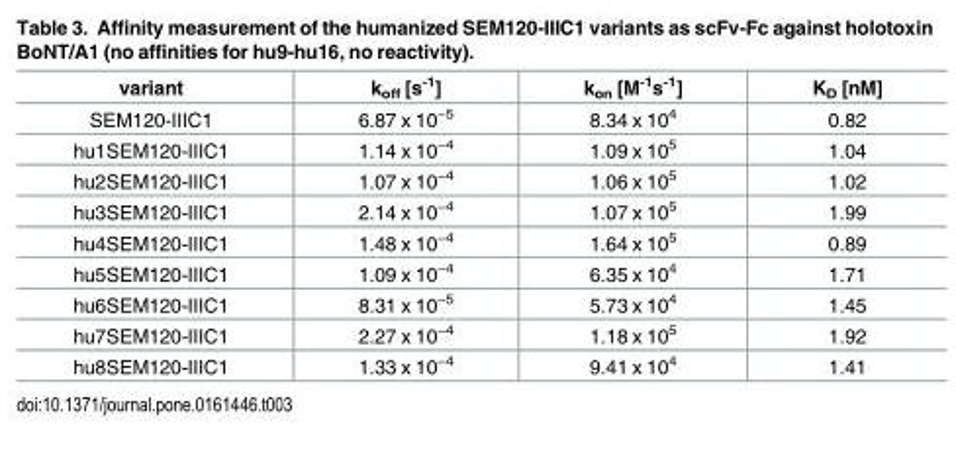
<table><thead><tr><td>variant</td><td>k<sub>off</sub> [s<sup>-1</sup>]</td><td>k<sub>on</sub> [M<sup>-1</sup>s<sup>-1</sup>]</td><td>K<sub>D</sub> [nM]</td></tr></thead><tbody><tr><td>SEM120-IIIC1</td><td>6.87 x 10<sup>−5</sup></td><td>8.34 x 10<sup>4</sup></td><td>0.82</td></tr><tr><td>hu1SEM120-IIIC1</td><td>1.14 x 10<sup>−4</sup></td><td>1.09 x 10<sup>5</sup></td><td>1.04</td></tr><tr><td>hu2SEM120-IIIC1</td><td>1.07 x 10<sup>−4</sup></td><td>1.06 x 10<sup>5</sup></td><td>1.02</td></tr><tr><td>hu3SEM120-IIIC1</td><td>2.14 x 10<sup>−4</sup></td><td>1.07 x 10<sup>5</sup></td><td>1.99</td></tr><tr><td>hu4SEM120-IIIC1</td><td>1.48 x 10<sup>−4</sup></td><td>1.64 x 10<sup>5</sup></td><td>0.89</td></tr><tr><td>hu5SEM120-IIIC1</td><td>1.09 x 10<sup>−4</sup></td><td>6.35 x 10<sup>4</sup></td><td>1.71</td></tr><tr><td>hu6SEM120-IIIC1</td><td>8.31 x 10<sup>−5</sup></td><td>5.73 x 10<sup>4</sup></td><td>1.45</td></tr><tr><td>hu7SEM120-IIIC1</td><td>2.27 x 10<sup>−4</sup></td><td>1.18 x 10<sup>5</sup></td><td>1.92</td></tr><tr><td>hu8SEM120-IIIC1</td><td>1.33 x 10<sup>−4</sup></td><td>9.41 x 10<sup>4</sup></td><td>1.41</td></tr></tbody></table>